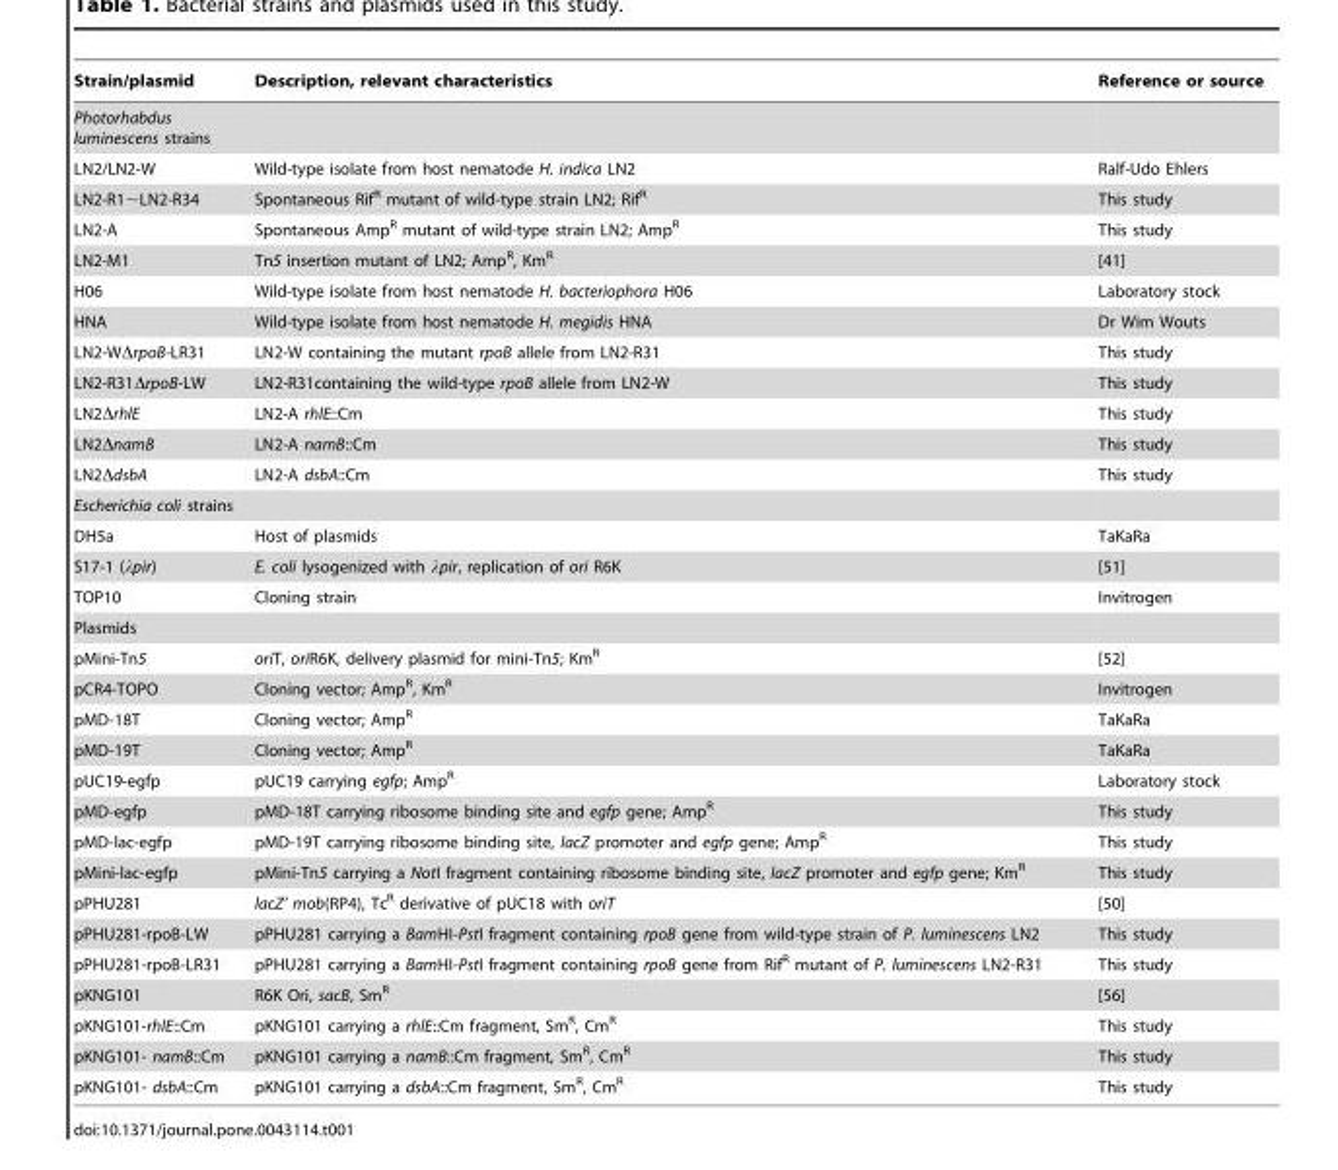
<table><thead><tr><td>Strain/plasmid</td><td>Description, relevant characteristics</td><td>Reference or source</td></tr></thead><tbody><tr><td colspan="3">Photorhabdus luminescens strains</td></tr><tr><td>LN2/LN2-W</td><td>Wild-type isolate from host nematode H. indica LN2</td><td>Ralf-Udo Ehlers</td></tr><tr><td>LN2-R1∼LN2-R34</td><td>Spontaneous Rif<sup>R</sup> mutant of wild-type strain LN2; Rif<sup>R</sup></td><td>This study</td></tr><tr><td>LN2-A</td><td>Spontaneous Amp<sup>R</sup> mutant of wild-type strain LN2; Amp<sup>R</sup></td><td>This study</td></tr><tr><td>LN2-M1</td><td>Tn5 insertion mutant of LN2; Amp<sup>R</sup>, Km<sup>R</sup></td><td>[41]</td></tr><tr><td>H06</td><td>Wild-type isolate from host nematode H. bacteriophora H06</td><td>Laboratory stock</td></tr><tr><td>HNA</td><td>Wild-type isolate from host nematode H. megidis HNA</td><td>Dr Wim Wouts</td></tr><tr><td>LN2-WΔrpoB-LR31</td><td>LN2-W containing the mutant rpoB allele from LN2-R31</td><td>This study</td></tr><tr><td>LN2-R31ΔrpoB-LW</td><td>LN2-R31containing the wild-type rpoB allele from LN2-W</td><td>This study</td></tr><tr><td>LN2ΔrhlE</td><td>LN2-A rhlE::Cm</td><td>This study</td></tr><tr><td>LN2ΔnamB</td><td>LN2-A namB::Cm</td><td>This study</td></tr><tr><td>LN2ΔdsbA</td><td>LN2-A dsbA::Cm</td><td>This study</td></tr><tr><td colspan="3">Escherichia coli strains</td></tr><tr><td>DH5a</td><td>Host of plasmids</td><td>TaKaRa</td></tr><tr><td>S17-1 (λpir)</td><td>E. coli lysogenized with λpir, replication of ori R6K</td><td>[51]</td></tr><tr><td>TOP10</td><td>Cloning strain</td><td>Invitrogen</td></tr><tr><td colspan="3">Plasmids</td></tr><tr><td>pMini-Tn5</td><td>oriT, oriR6K, delivery plasmid for mini-Tn5; Km<sup>R</sup></td><td>[52]</td></tr><tr><td>pCR4-TOPO</td><td>Cloning vector; Amp<sup>R</sup>, Km<sup>R</sup></td><td>Invitrogen</td></tr><tr><td>pMD-18T</td><td>Cloning vector; Amp<sup>R</sup></td><td>TaKaRa</td></tr><tr><td>pMD-19T</td><td>Cloning vector; Amp<sup>R</sup></td><td>TaKaRa</td></tr><tr><td>pUC19-egfp</td><td>pUC19 carrying egfp; Amp<sup>R</sup></td><td>Laboratory stock</td></tr><tr><td>pMD-egfp</td><td>pMD-18T carrying ribosome binding site and egfp gene; Amp<sup>R</sup></td><td>This study</td></tr><tr><td>pMD-lac-egfp</td><td>pMD-19T carrying ribosome binding site, lacZ promoter and egfp gene; Amp<sup>R</sup></td><td>This study</td></tr><tr><td>pMini-lac-egfp</td><td>pMini-Tn5 carrying a NotI fragment containing ribosome binding site, lacZ promoter and egfp gene; Km<sup>R</sup></td><td>This study</td></tr><tr><td>pPHU281</td><td>lacZ’ mob(RP4), Tc<sup>R</sup> derivative of pUC18 with oriT</td><td>[50]</td></tr><tr><td>pPHU281-rpoB-LW</td><td>pPHU281 carrying a BamHI-PstI fragment containing rpoB gene from wild-type strain of P. luminescens LN2</td><td>This study</td></tr><tr><td>pPHU281-rpoB-LR31</td><td>pPHU281 carrying a BamHI-PstI fragment containing rpoB gene from Rif<sup>R</sup> mutant of P. luminescens LN2-R31</td><td>This study</td></tr><tr><td>pKNG101</td><td>R6K Ori, sacB, Sm<sup>R</sup></td><td>[56]</td></tr><tr><td>pKNG101-rhlE::Cm</td><td>pKNG101 carrying a rhlE::Cm fragment, Sm<sup>R</sup>, Cm<sup>R</sup></td><td>This study</td></tr><tr><td>pKNG101- namB::Cm</td><td>pKNG101 carrying a namB::Cm fragment, Sm<sup>R</sup>, Cm<sup>R</sup></td><td>This study</td></tr><tr><td>pKNG101- dsbA::Cm</td><td>pKNG101 carrying a dsbA::Cm fragment, Sm<sup>R</sup>, Cm<sup>R</sup></td><td>This study</td></tr></tbody></table>